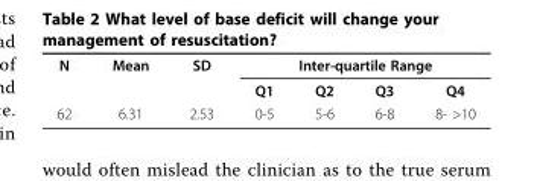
<table><tbody><tr><td rowspan="2">N</td><td>Mean</td><td>SD</td><td colspan="4">Inter-quartile Range</td></tr><tr><td></td><td></td><td>Q1</td><td>Q2</td><td>Q3</td><td>Q4</td></tr><tr><td>62</td><td>6.31</td><td>2.53</td><td>0-5</td><td>5-6</td><td>6-8</td><td>8- &gt;10</td></tr></tbody></table>